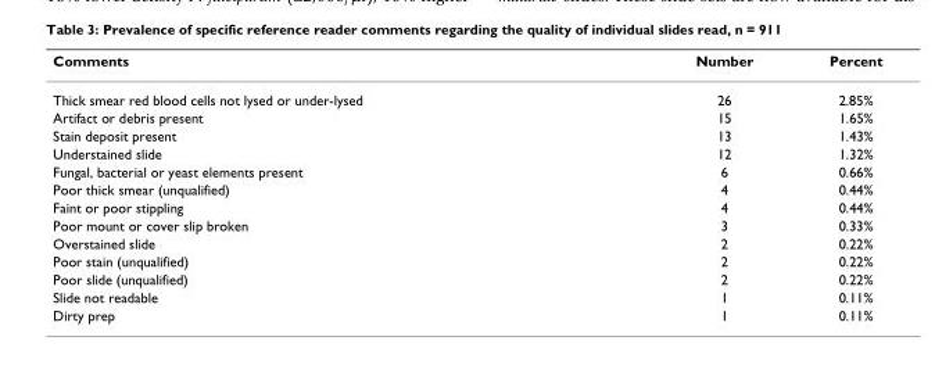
<table><thead><tr><td>Comments</td><td>Number</td><td>Percent</td></tr></thead><tbody><tr><td>Thick smear red blood cells not lysed or under-lysed</td><td>26</td><td>2.85%</td></tr><tr><td>Artifact or debris present</td><td>15</td><td>1.65%</td></tr><tr><td>Stain deposit present</td><td>13</td><td>1.43%</td></tr><tr><td>Understained slide</td><td>12</td><td>1.32%</td></tr><tr><td>Fungal, bacterial or yeast elements present</td><td>6</td><td>0.66%</td></tr><tr><td>Poor thick smear (unqualified)</td><td>4</td><td>0.44%</td></tr><tr><td>Faint or poor stippling</td><td>4</td><td>0.44%</td></tr><tr><td>Poor mount or cover slip broken</td><td>3</td><td>0.33%</td></tr><tr><td>Overstained slide</td><td>2</td><td>0.22%</td></tr><tr><td>Poor stain (unqualified)</td><td>2</td><td>0.22%</td></tr><tr><td>Poor slide (unqualified)</td><td>2</td><td>0.22%</td></tr><tr><td>Slide not readable</td><td>1</td><td>0.11%</td></tr><tr><td>Dirty prep</td><td>1</td><td>0.11%</td></tr></tbody></table>